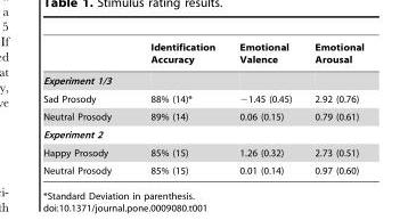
<table><thead><tr><td></td><td>Identification Accuracy</td><td>Emotional Valence</td><td>Emotional Arousal</td></tr></thead><tbody><tr><td colspan="4">Experiment 1/3</td></tr><tr><td>Sad Prosody</td><td>88% (14)*</td><td>−1.45 (0.45)</td><td>2.92 (0.76)</td></tr><tr><td>Neutral Prosody</td><td>89% (14)</td><td>0.06 (0.15)</td><td>0.79 (0.61)</td></tr><tr><td colspan="4">Experiment 2</td></tr><tr><td>Happy Prosody</td><td>85% (15)</td><td>1.26 (0.32)</td><td>2.73 (0.51)</td></tr><tr><td>Neutral Prosody</td><td>85% (15)</td><td>0.01 (0.14)</td><td>0.97 (0.60)</td></tr></tbody></table>